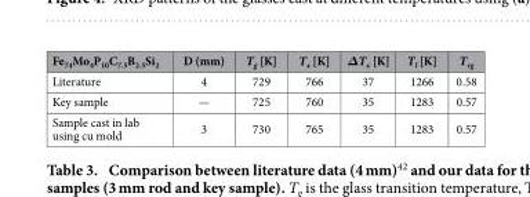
<table><thead><tr><td>Fe<sub>74</sub>Mo<sub>4</sub>P<sub>10</sub>C<sub>7.5</sub>B<sub>2.5</sub>Si<sub>2</sub></td><td>D (mm)</td><td>T<sub>g</sub> [K]</td><td>T<sub>x</sub> [K]</td><td>ΔT<sub>x</sub> [K]</td><td>T<sub>l</sub> [K]</td><td>T<sub>rg</sub></td></tr></thead><tbody><tr><td>Literature</td><td>4</td><td>729</td><td>766</td><td>37</td><td>1266</td><td>0.58</td></tr><tr><td>Key sample</td><td>—</td><td>725</td><td>760</td><td>35</td><td>1283</td><td>0.57</td></tr><tr><td>Sample cast in lab using cu mold</td><td>3</td><td>730</td><td>765</td><td>35</td><td>1283</td><td>0.57</td></tr></tbody></table>